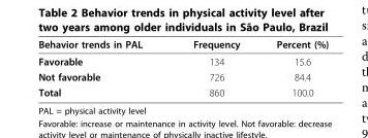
<table><thead><tr><td>Behavior trends in PAL</td><td>Frequency</td><td>Percent (%)</td></tr></thead><tbody><tr><td>Favorable</td><td>134</td><td>15.6</td></tr><tr><td>Not favorable</td><td>726</td><td>84.4</td></tr><tr><td>Total</td><td>860</td><td>100.0</td></tr></tbody></table>